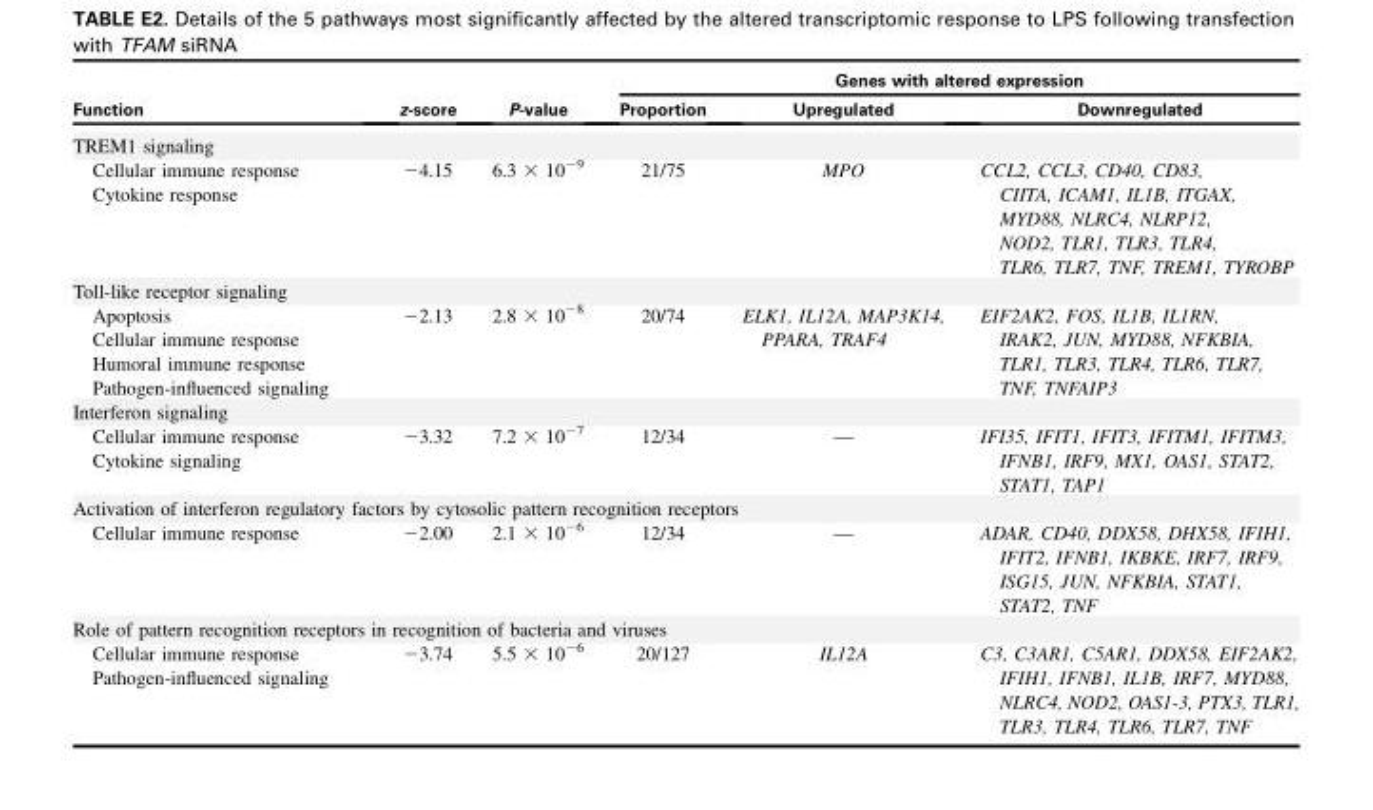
<table><thead><tr><td rowspan="2">Function</td><td rowspan="2">z-score</td><td rowspan="2">P-value</td><td colspan="3">Genes with altered expression</td></tr><tr><td>Proportion</td><td>Upregulated</td><td>Downregulated</td></tr></thead><tbody><tr><td colspan="6">TREM1 signaling</td></tr><tr><td>Cellular immune response Cytokine response</td><td>−4.15</td><td>6.3 × 10−9</td><td>21/75</td><td>MPO</td><td>CCL2, CCL3, CD40, CD83, CIITA, ICAM1, IL1B, ITGAX, MYD88, NLRC4, NLRP12, NOD2, TLR1, TLR3, TLR4, TLR6, TLR7, TNF, TREM1, TYROBP</td></tr><tr><td colspan="6">Toll-like receptor signaling</td></tr><tr><td>Apoptosis Cellular immune response Humoral immune response Pathogen-influenced signaling</td><td>−2.13</td><td>2.8 × 10−8</td><td>20/74</td><td>ELK1, IL12A, MAP3K14, PPARA, TRAF4</td><td>EIF2AK2, FOS, IL1B, IL1RN, IRAK2, JUN, MYD88, NFKBIA, TLR1, TLR3, TLR4, TLR6, TLR7, TNF, TNFAIP3</td></tr><tr><td colspan="6">Interferon signaling</td></tr><tr><td>Cellular immune response Cytokine signaling</td><td>−3.32</td><td>7.2 × 10−7</td><td>12/34</td><td>—</td><td>IFI35, IFIT1, IFIT3, IFITM1, IFITM3, IFNB1, IRF9, MX1, OAS1, STAT2, STAT1, TAP1</td></tr><tr><td colspan="6">Activation of interferon regulatory factors by cytosolic pattern recognition receptors</td></tr><tr><td>Cellular immune response</td><td>−2.00</td><td>2.1 × 10−6</td><td>12/34</td><td>—</td><td>ADAR, CD40, DDX58, DHX58, IFIH1, IFIT2, IFNB1, IKBKE, IRF7, IRF9, ISG15, JUN, NFKBIA, STAT1, STAT2, TNF</td></tr><tr><td colspan="6">Role of pattern recognition receptors in recognition of bacteria and viruses</td></tr><tr><td>Cellular immune response Pathogen-influenced signaling</td><td>−3.74</td><td>5.5 × 10−6</td><td>20/127</td><td>IL12A</td><td>C3, C3AR1, C5AR1, DDX58, EIF2AK2, IFIH1, IFNB1, IL1B, IRF7, MYD88, NLRC4, NOD2, OAS1-3, PTX3, TLR1, TLR3, TLR4, TLR6, TLR7, TNF</td></tr></tbody></table>